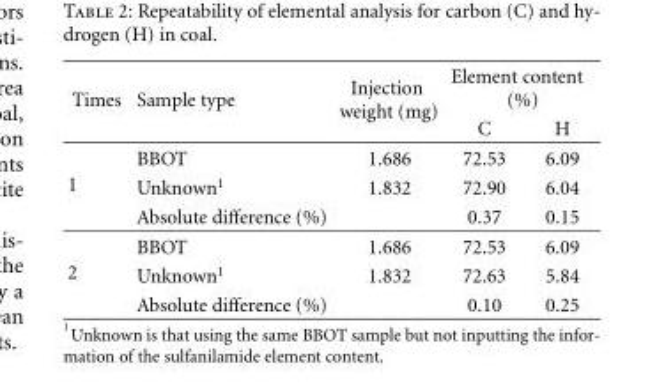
<table><thead><tr><td rowspan="2">Times</td><td rowspan="2">Sample type</td><td rowspan="2">Injection weight (mg)</td><td colspan="2">Element content (%)</td></tr><tr><td>C</td><td>H</td></tr></thead><tbody><tr><td rowspan="3">1</td><td>BBOT</td><td>1.686</td><td>72.53</td><td>6.09</td></tr><tr><td>Unknown<sup>1</sup></td><td>1.832</td><td>72.90</td><td>6.04</td></tr><tr><td>Absolute difference (%)</td><td></td><td>0.37</td><td>0.15</td></tr><tr><td rowspan="3">2</td><td>BBOT</td><td>1.686</td><td>72.53</td><td>6.09</td></tr><tr><td>Unknown<sup>1</sup></td><td>1.832</td><td>72.63</td><td>5.84</td></tr><tr><td>Absolute difference (%)</td><td></td><td>0.10</td><td>0.25</td></tr></tbody></table>